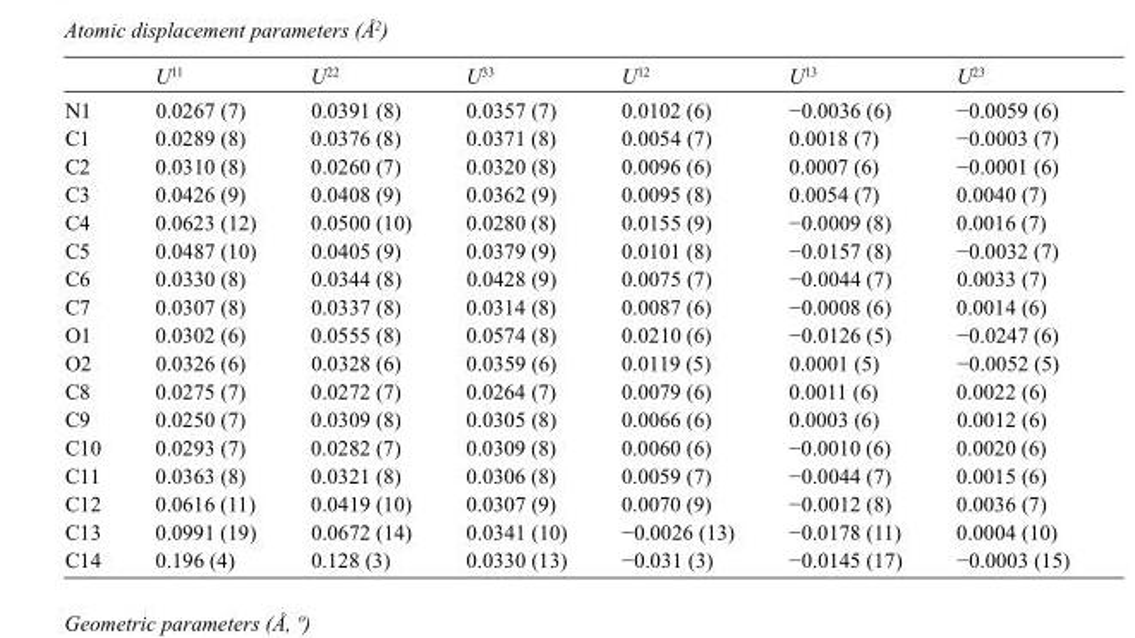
<table><thead><tr><td></td><td>U<sup>11</sup></td><td>U<sup>22</sup></td><td>U<sup>33</sup></td><td>U<sup>12</sup></td><td>U<sup>13</sup></td><td>U<sup>23</sup></td></tr></thead><tbody><tr><td>N1</td><td>0.0267 (7)</td><td>0.0391 (8)</td><td>0.0357 (7)</td><td>0.0102 (6)</td><td>−0.0036 (6)</td><td>−0.0059 (6)</td></tr><tr><td>C1</td><td>0.0289 (8)</td><td>0.0376 (8)</td><td>0.0371 (8)</td><td>0.0054 (7)</td><td>0.0018 (7)</td><td>−0.0003 (7)</td></tr><tr><td>C2</td><td>0.0310 (8)</td><td>0.0260 (7)</td><td>0.0320 (8)</td><td>0.0096 (6)</td><td>0.0007 (6)</td><td>−0.0001 (6)</td></tr><tr><td>C3</td><td>0.0426 (9)</td><td>0.0408 (9)</td><td>0.0362 (9)</td><td>0.0095 (8)</td><td>0.0054 (7)</td><td>0.0040 (7)</td></tr><tr><td>C4</td><td>0.0623 (12)</td><td>0.0500 (10)</td><td>0.0280 (8)</td><td>0.0155 (9)</td><td>−0.0009 (8)</td><td>0.0016 (7)</td></tr><tr><td>C5</td><td>0.0487 (10)</td><td>0.0405 (9)</td><td>0.0379 (9)</td><td>0.0101 (8)</td><td>−0.0157 (8)</td><td>−0.0032 (7)</td></tr><tr><td>C6</td><td>0.0330 (8)</td><td>0.0344 (8)</td><td>0.0428 (9)</td><td>0.0075 (7)</td><td>−0.0044 (7)</td><td>0.0033 (7)</td></tr><tr><td>C7</td><td>0.0307 (8)</td><td>0.0337 (8)</td><td>0.0314 (8)</td><td>0.0087 (6)</td><td>−0.0008 (6)</td><td>0.0014 (6)</td></tr><tr><td>O1</td><td>0.0302 (6)</td><td>0.0555 (8)</td><td>0.0574 (8)</td><td>0.0210 (6)</td><td>−0.0126 (5)</td><td>−0.0247 (6)</td></tr><tr><td>O2</td><td>0.0326 (6)</td><td>0.0328 (6)</td><td>0.0359 (6)</td><td>0.0119 (5)</td><td>0.0001 (5)</td><td>−0.0052 (5)</td></tr><tr><td>C8</td><td>0.0275 (7)</td><td>0.0272 (7)</td><td>0.0264 (7)</td><td>0.0079 (6)</td><td>0.0011 (6)</td><td>0.0022 (6)</td></tr><tr><td>C9</td><td>0.0250 (7)</td><td>0.0309 (8)</td><td>0.0305 (8)</td><td>0.0066 (6)</td><td>0.0003 (6)</td><td>0.0012 (6)</td></tr><tr><td>C10</td><td>0.0293 (7)</td><td>0.0282 (7)</td><td>0.0309 (8)</td><td>0.0060 (6)</td><td>−0.0010 (6)</td><td>0.0020 (6)</td></tr><tr><td>C11</td><td>0.0363 (8)</td><td>0.0321 (8)</td><td>0.0306 (8)</td><td>0.0059 (7)</td><td>−0.0044 (7)</td><td>0.0015 (6)</td></tr><tr><td>C12</td><td>0.0616 (11)</td><td>0.0419 (10)</td><td>0.0307 (9)</td><td>0.0070 (9)</td><td>−0.0012 (8)</td><td>0.0036 (7)</td></tr><tr><td>C13</td><td>0.0991 (19)</td><td>0.0672 (14)</td><td>0.0341 (10)</td><td>−0.0026 (13)</td><td>−0.0178 (11)</td><td>0.0004 (10)</td></tr><tr><td>C14</td><td>0.196 (4)</td><td>0.128 (3)</td><td>0.0330 (13)</td><td>−0.031 (3)</td><td>−0.0145 (17)</td><td>−0.0003 (15)</td></tr></tbody></table>